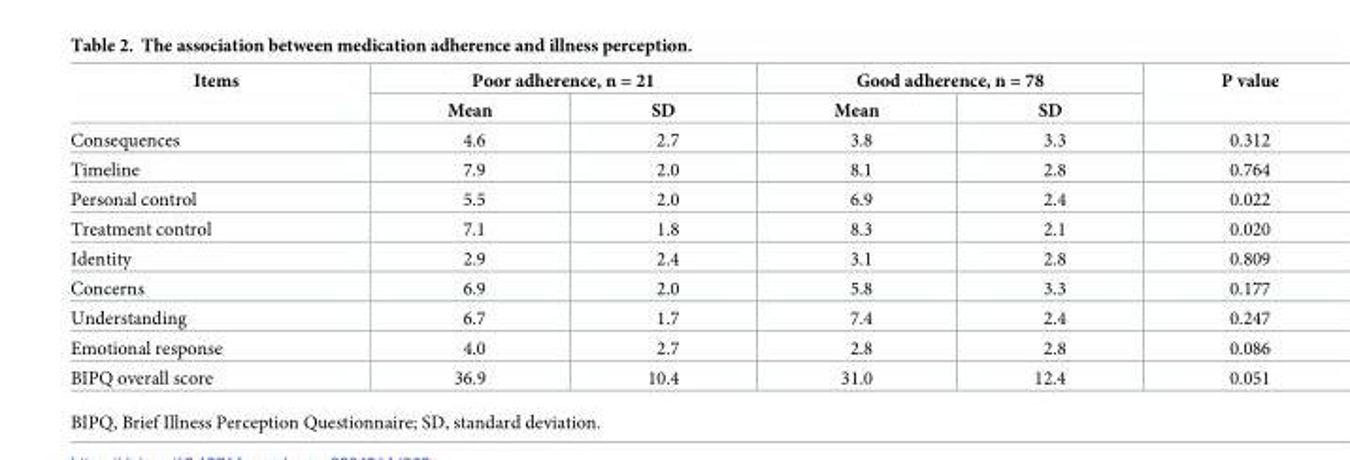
<table><thead><tr><td rowspan="2">Items</td><td colspan="2">Poor adherence, n = 21</td><td colspan="2">Good adherence, n = 78</td><td rowspan="2">P value</td></tr><tr><td>Mean</td><td>SD</td><td>Mean</td><td>SD</td></tr></thead><tbody><tr><td>Consequences</td><td>4.6</td><td>2.7</td><td>3.8</td><td>3.3</td><td>0.312</td></tr><tr><td>Timeline</td><td>7.9</td><td>2.0</td><td>8.1</td><td>2.8</td><td>0.764</td></tr><tr><td>Personal control</td><td>5.5</td><td>2.0</td><td>6.9</td><td>2.4</td><td>0.022</td></tr><tr><td>Treatment control</td><td>7.1</td><td>1.8</td><td>8.3</td><td>2.1</td><td>0.020</td></tr><tr><td>Identity</td><td>2.9</td><td>2.4</td><td>3.1</td><td>2.8</td><td>0.809</td></tr><tr><td>Concerns</td><td>6.9</td><td>2.0</td><td>5.8</td><td>3.3</td><td>0.177</td></tr><tr><td>Understanding</td><td>6.7</td><td>1.7</td><td>7.4</td><td>2.4</td><td>0.247</td></tr><tr><td>Emotional response</td><td>4.0</td><td>2.7</td><td>2.8</td><td>2.8</td><td>0.086</td></tr><tr><td>BIPQ overall score</td><td>36.9</td><td>10.4</td><td>31.0</td><td>12.4</td><td>0.051</td></tr></tbody></table>